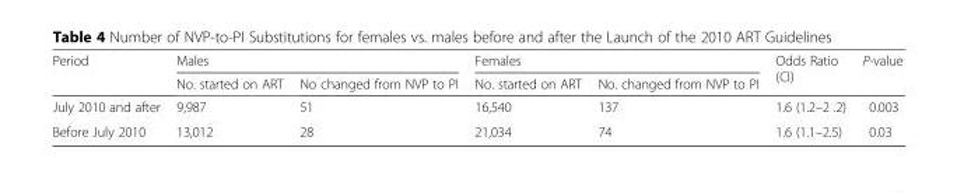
<table><thead><tr><td rowspan="2">Period</td><td colspan="2">Males</td><td colspan="2">Females</td><td rowspan="2">Odds Ratio (CI)</td><td rowspan="2">P-value</td></tr><tr><td>No. started on ART</td><td>No changed from NVP to PI</td><td>No. started on ART</td><td>No. changed from NVP to PI</td></tr></thead><tbody><tr><td>July 2010 and after</td><td>9,987</td><td>51</td><td>16,540</td><td>137</td><td>1.6 (1.2–2 .2)</td><td>0.003</td></tr><tr><td>Before July 2010</td><td>13,012</td><td>28</td><td>21,034</td><td>74</td><td>1.6 (1.1–2.5)</td><td>0.03</td></tr></tbody></table>